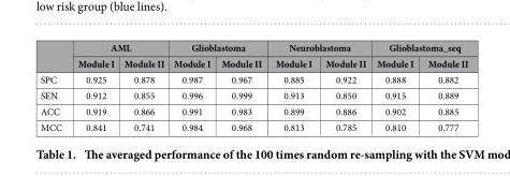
<table><thead><tr><td rowspan="2"></td><td colspan="2">AML</td><td colspan="2">Glioblastoma</td><td colspan="2">Neuroblastoma</td><td colspan="2">Glioblastoma_seq</td></tr><tr><td>Module I</td><td>Module II</td><td>Module I</td><td>Module II</td><td>Module I</td><td>Module II</td><td>Module I</td><td>Module II</td></tr></thead><tbody><tr><td>SPC</td><td>0.925</td><td>0.878</td><td>0.987</td><td>0.967</td><td>0.885</td><td>0.922</td><td>0.888</td><td>0.882</td></tr><tr><td>SEN</td><td>0.912</td><td>0.855</td><td>0.996</td><td>0.999</td><td>0.913</td><td>0.850</td><td>0.915</td><td>0.889</td></tr><tr><td>ACC</td><td>0.919</td><td>0.866</td><td>0.991</td><td>0.983</td><td>0.899</td><td>0.886</td><td>0.902</td><td>0.885</td></tr><tr><td>MCC</td><td>0.841</td><td>0.741</td><td>0.984</td><td>0.968</td><td>0.813</td><td>0.785</td><td>0.810</td><td>0.777</td></tr></tbody></table>